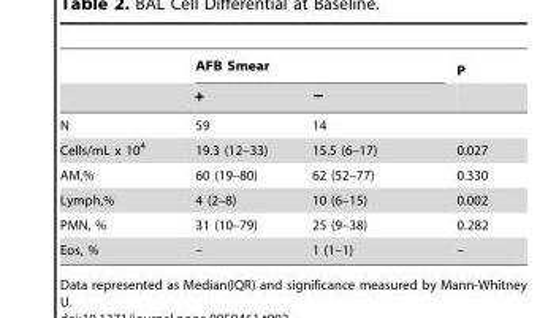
<table><thead><tr><td rowspan="2"></td><td colspan="2">AFB Smear</td><td rowspan="2">P</td></tr><tr><td>+</td><td>−</td></tr></thead><tbody><tr><td>N</td><td>59</td><td>14</td><td></td></tr><tr><td>Cells/mL x 10<sup>4</sup></td><td>19.3 (12–33)</td><td>15.5 (6–17)</td><td>0.027</td></tr><tr><td>AM,%</td><td>60 (19–80)</td><td>62 (52–77)</td><td>0.330</td></tr><tr><td>Lymph,%</td><td>4 (2–8)</td><td>10 (6–15)</td><td>0.002</td></tr><tr><td>PMN, %</td><td>31 (10–79)</td><td>25 (9–38)</td><td>0.282</td></tr><tr><td>Eos, %</td><td>–</td><td>1 (1–1)</td><td>–</td></tr></tbody></table>